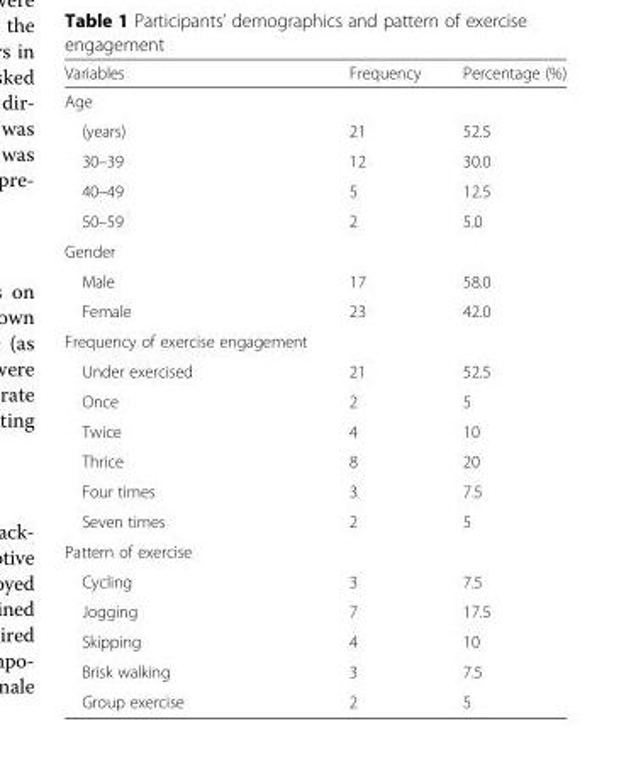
<table><thead><tr><td>Variables</td><td>Frequency</td><td>Percentage (%)</td></tr></thead><tbody><tr><td colspan="3">Age</td></tr><tr><td>(years)</td><td>21</td><td>52.5</td></tr><tr><td>30–39</td><td>12</td><td>30.0</td></tr><tr><td>40–49</td><td>5</td><td>12.5</td></tr><tr><td>50–59</td><td>2</td><td>5.0</td></tr><tr><td colspan="3">Gender</td></tr><tr><td>Male</td><td>17</td><td>58.0</td></tr><tr><td>Female</td><td>23</td><td>42.0</td></tr><tr><td colspan="3">Frequency of exercise engagement</td></tr><tr><td>Under exercised</td><td>21</td><td>52.5</td></tr><tr><td>Once</td><td>2</td><td>5</td></tr><tr><td>Twice</td><td>4</td><td>10</td></tr><tr><td>Thrice</td><td>8</td><td>20</td></tr><tr><td>Four times</td><td>3</td><td>7.5</td></tr><tr><td>Seven times</td><td>2</td><td>5</td></tr><tr><td colspan="3">Pattern of exercise</td></tr><tr><td>Cycling</td><td>3</td><td>7.5</td></tr><tr><td>Jogging</td><td>7</td><td>17.5</td></tr><tr><td>Skipping</td><td>4</td><td>10</td></tr><tr><td>Brisk walking</td><td>3</td><td>7.5</td></tr><tr><td>Group exercise</td><td>2</td><td>5</td></tr></tbody></table>